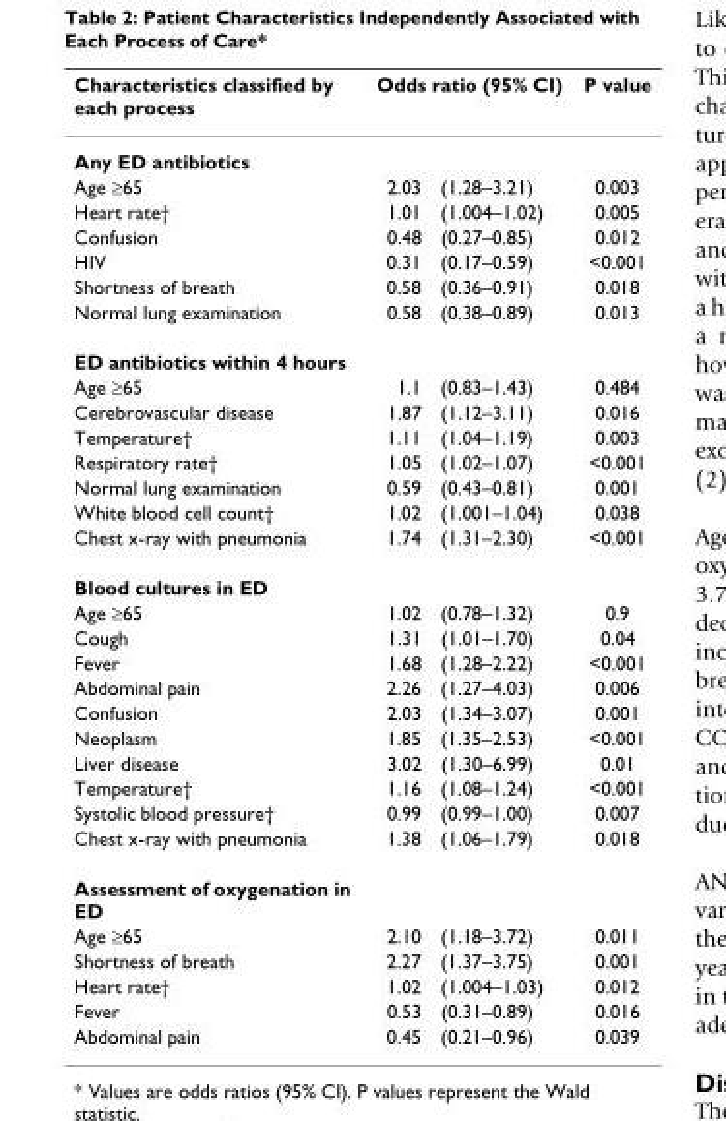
<table><thead><tr><td rowspan="2">Characteristics classified by each process Any ED antibiotics</td><td colspan="2">Odds ratio (95% CI)</td><td rowspan="2">P value</td></tr><tr><td></td><td></td></tr></thead><tbody><tr><td>Age ≥65</td><td>2.03</td><td>(1.28–3.21)</td><td>0.003</td></tr><tr><td>Heart rate†</td><td>1.01</td><td>(1.004–1.02)</td><td>0.005</td></tr><tr><td>Confusion</td><td>0.48</td><td>(0.27–0.85)</td><td>0.012</td></tr><tr><td>HIV</td><td>0.31</td><td>(0.17–0.59)</td><td>&lt;0.001</td></tr><tr><td>Shortness of breath</td><td>0.58</td><td>(0.36–0.91)</td><td>0.018</td></tr><tr><td>Normal lung examination</td><td>0.58</td><td>(0.38–0.89)</td><td>0.013</td></tr><tr><td colspan="4">ED antibiotics within 4 hours</td></tr><tr><td>Age ≥65</td><td>1.1</td><td>(0.83–1.43)</td><td>0.484</td></tr><tr><td>Cerebrovascular disease</td><td>1.87</td><td>(1.12–3.11)</td><td>0.016</td></tr><tr><td>Temperature†</td><td>1.11</td><td>(1.04–1.19)</td><td>0.003</td></tr><tr><td>Respiratory rate†</td><td>1.05</td><td>(1.02–1.07)</td><td>&lt;0.001</td></tr><tr><td>Normal lung examination</td><td>0.59</td><td>(0.43–0.81)</td><td>0.001</td></tr><tr><td>White blood cell count†</td><td>1.02</td><td>(1.001–1.04)</td><td>0.038</td></tr><tr><td>Chest x-ray with pneumonia</td><td>1.74</td><td>(1.31–2.30)</td><td>&lt;0.001</td></tr><tr><td colspan="4">Blood cultures in ED</td></tr><tr><td>Age ≥65</td><td>1.02</td><td>(0.78–1.32)</td><td>0.9</td></tr><tr><td>Cough</td><td>1.31</td><td>(1.01–1.70)</td><td>0.04</td></tr><tr><td>Fever</td><td>1.68</td><td>(1.28–2.22)</td><td>&lt;0.001</td></tr><tr><td>Abdominal pain</td><td>2.26</td><td>(1.27–4.03)</td><td>0.006</td></tr><tr><td>Confusion</td><td>2.03</td><td>(1.34–3.07)</td><td>0.001</td></tr><tr><td>Neoplasm</td><td>1.85</td><td>(1.35–2.53)</td><td>&lt;0.001</td></tr><tr><td>Liver disease</td><td>3.02</td><td>(1.30–6.99)</td><td>0.01</td></tr><tr><td>Temperature†</td><td>1.16</td><td>(1.08–1.24)</td><td>&lt;0.001</td></tr><tr><td>Systolic blood pressure†</td><td>0.99</td><td>(0.99–1.00)</td><td>0.007</td></tr><tr><td>Chest x-ray with pneumonia</td><td>1.38</td><td>(1.06–1.79)</td><td>0.018</td></tr><tr><td colspan="4">Assessment of oxygenation in ED</td></tr><tr><td>Age ≥65</td><td>2.10</td><td>(1.18–3.72)</td><td>0.011</td></tr><tr><td>Shortness of breath</td><td>2.27</td><td>(1.37–3.75)</td><td>0.001</td></tr><tr><td>Heart rate†</td><td>1.02</td><td>(1.004–1.03)</td><td>0.012</td></tr><tr><td>Fever</td><td>0.53</td><td>(0.31–0.89)</td><td>0.016</td></tr><tr><td>Abdominal pain</td><td>0.45</td><td>(0.21–0.96)</td><td>0.039</td></tr></tbody></table>